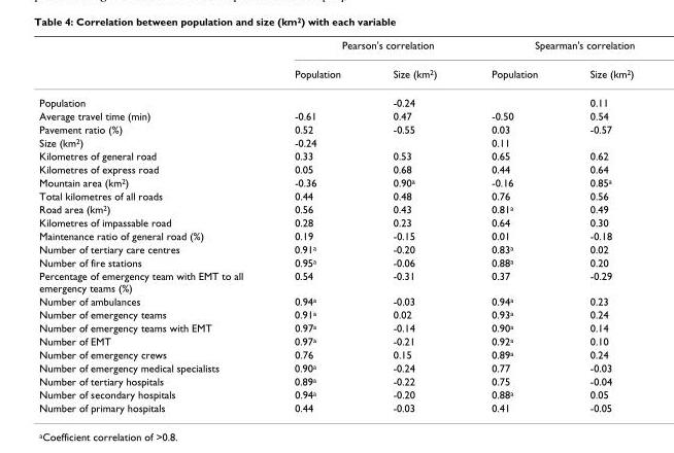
<table><thead><tr><td rowspan="2"></td><td colspan="2">Pearson&#x27;s correlation</td><td colspan="2">Spearman&#x27;s correlation</td></tr><tr><td>Population</td><td>Size (km<sup>2</sup>)</td><td>Population</td><td>Size (km<sup>2</sup>)</td></tr></thead><tbody><tr><td>Population</td><td></td><td>-0.24</td><td></td><td>0.11</td></tr><tr><td>Average travel time (min)</td><td>-0.61</td><td>0.47</td><td>-0.50</td><td>0.54</td></tr><tr><td>Pavement ratio (%)</td><td>0.52</td><td>-0.55</td><td>0.03</td><td>-0.57</td></tr><tr><td>Size (km<sup>2</sup>)</td><td>-0.24</td><td></td><td>0.11</td><td></td></tr><tr><td>Kilometres of general road</td><td>0.33</td><td>0.53</td><td>0.65</td><td>0.62</td></tr><tr><td>Kilometres of express road</td><td>0.05</td><td>0.68</td><td>0.44</td><td>0.64</td></tr><tr><td>Mountain area (km<sup>2</sup>)</td><td>-0.36</td><td>0.90<sup>a</sup></td><td>-0.16</td><td>0.85<sup>a</sup></td></tr><tr><td>Total kilometres of all roads</td><td>0.44</td><td>0.48</td><td>0.76</td><td>0.56</td></tr><tr><td>Road area (km<sup>2</sup>)</td><td>0.56</td><td>0.43</td><td>0.81<sup>a</sup></td><td>0.49</td></tr><tr><td>Kilometres of impassable road</td><td>0.28</td><td>0.23</td><td>0.64</td><td>0.30</td></tr><tr><td>Maintenance ratio of general road (%)</td><td>0.19</td><td>-0.15</td><td>0.01</td><td>-0.18</td></tr><tr><td>Number of tertiary care centres</td><td>0.91<sup>a</sup></td><td>-0.20</td><td>0.83<sup>a</sup></td><td>0.02</td></tr><tr><td>Number of fire stations</td><td>0.95<sup>a</sup></td><td>-0.06</td><td>0.88<sup>a</sup></td><td>0.20</td></tr><tr><td>Percentage of emergency team with EMT to all emergency teams (%)</td><td>0.54</td><td>-0.31</td><td>0.37</td><td>-0.29</td></tr><tr><td>Number of ambulances</td><td>0.94<sup>a</sup></td><td>-0.03</td><td>0.94<sup>a</sup></td><td>0.23</td></tr><tr><td>Number of emergency teams</td><td>0.91<sup>a</sup></td><td>0.02</td><td>0.93<sup>a</sup></td><td>0.24</td></tr><tr><td>Number of emergency teams with EMT</td><td>0.97<sup>a</sup></td><td>-0.14</td><td>0.90<sup>a</sup></td><td>0.14</td></tr><tr><td>Number of EMT</td><td>0.97<sup>a</sup></td><td>-0.21</td><td>0.92<sup>a</sup></td><td>0.10</td></tr><tr><td>Number of emergency crews</td><td>0.76</td><td>0.15</td><td>0.89<sup>a</sup></td><td>0.24</td></tr><tr><td>Number of emergency medical specialists</td><td>0.90<sup>a</sup></td><td>-0.24</td><td>0.77</td><td>-0.03</td></tr><tr><td>Number of tertiary hospitals</td><td>0.89<sup>a</sup></td><td>-0.22</td><td>0.75</td><td>-0.04</td></tr><tr><td>Number of secondary hospitals</td><td>0.94<sup>a</sup></td><td>-0.20</td><td>0.88<sup>a</sup></td><td>0.05</td></tr><tr><td>Number of primary hospitals</td><td>0.44</td><td>-0.03</td><td>0.41</td><td>-0.05</td></tr></tbody></table>